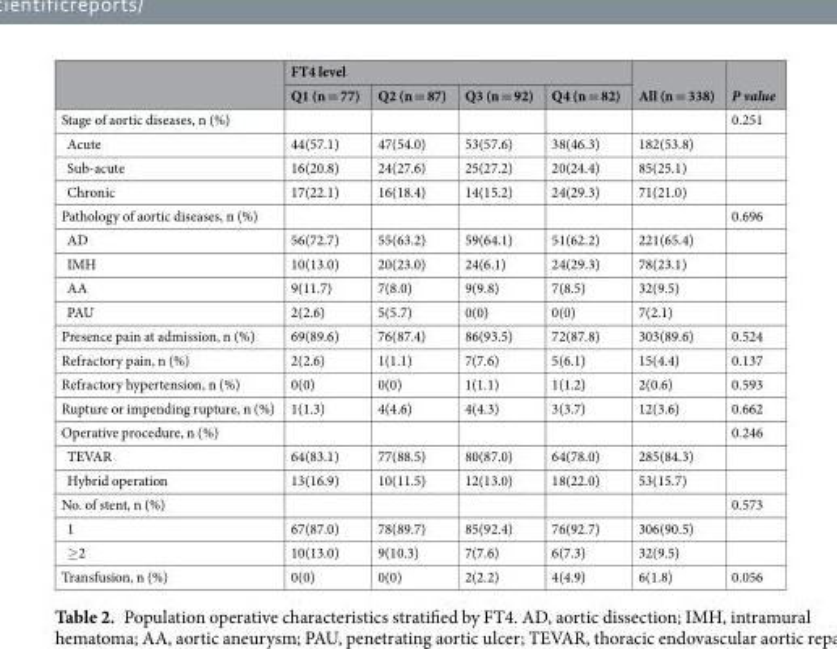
<table><thead><tr><td rowspan="2"></td><td colspan="4">FT4 level</td><td rowspan="2">All (n = 338)</td><td rowspan="2">P value</td></tr><tr><td>Q1 (n = 77)</td><td>Q2 (n = 87)</td><td>Q3 (n = 92)</td><td>Q4 (n = 82)</td></tr></thead><tbody><tr><td>Stage of aortic diseases, n (%)</td><td></td><td></td><td></td><td></td><td></td><td>0.251</td></tr><tr><td>Acute</td><td>44(57.1)</td><td>47(54.0)</td><td>53(57.6)</td><td>38(46.3)</td><td>182(53.8)</td><td></td></tr><tr><td>Sub-acute</td><td>16(20.8)</td><td>24(27.6)</td><td>25(27.2)</td><td>20(24.4)</td><td>85(25.1)</td><td></td></tr><tr><td>Chronic</td><td>17(22.1)</td><td>16(18.4)</td><td>14(15.2)</td><td>24(29.3)</td><td>71(21.0)</td><td></td></tr><tr><td>Pathology of aortic diseases, n (%)</td><td></td><td></td><td></td><td></td><td></td><td>0.696</td></tr><tr><td>AD</td><td>56(72.7)</td><td>55(63.2)</td><td>59(64.1)</td><td>51(62.2)</td><td>221(65.4)</td><td></td></tr><tr><td>IMH</td><td>10(13.0)</td><td>20(23.0)</td><td>24(6.1)</td><td>24(29.3)</td><td>78(23.1)</td><td></td></tr><tr><td>AA</td><td>9(11.7)</td><td>7(8.0)</td><td>9(9.8)</td><td>7(8.5)</td><td>32(9.5)</td><td></td></tr><tr><td>PAU</td><td>2(2.6)</td><td>5(5.7)</td><td>0(0)</td><td>0(0)</td><td>7(2.1)</td><td></td></tr><tr><td>Presence pain at admission, n (%)</td><td>69(89.6)</td><td>76(87.4)</td><td>86(93.5)</td><td>72(87.8)</td><td>303(89.6)</td><td>0.524</td></tr><tr><td>Refractory pain, n (%)</td><td>2(2.6)</td><td>1(1.1)</td><td>7(7.6)</td><td>5(6.1)</td><td>15(4.4)</td><td>0.137</td></tr><tr><td>Refractory hypertension, n (%)</td><td>0(0)</td><td>0(0)</td><td>1(1.1)</td><td>1(1.2)</td><td>2(0.6)</td><td>0.593</td></tr><tr><td>Rupture or impending rupture, n (%)</td><td>1(1.3)</td><td>4(4.6)</td><td>4(4.3)</td><td>3(3.7)</td><td>12(3.6)</td><td>0.662</td></tr><tr><td>Operative procedure, n (%)</td><td></td><td></td><td></td><td></td><td></td><td>0.246</td></tr><tr><td>TEVAR</td><td>64(83.1)</td><td>77(88.5)</td><td>80(87.0)</td><td>64(78.0)</td><td>285(84.3)</td><td></td></tr><tr><td>Hybrid operation</td><td>13(16.9)</td><td>10(11.5)</td><td>12(13.0)</td><td>18(22.0)</td><td>53(15.7)</td><td></td></tr><tr><td>No. of stent, n (%)</td><td></td><td></td><td></td><td></td><td></td><td>0.573</td></tr><tr><td>1</td><td>67(87.0)</td><td>78(89.7)</td><td>85(92.4)</td><td>76(92.7)</td><td>306(90.5)</td><td></td></tr><tr><td>≥2</td><td>10(13.0)</td><td>9(10.3)</td><td>7(7.6)</td><td>6(7.3)</td><td>32(9.5)</td><td></td></tr><tr><td>Transfusion, n (%)</td><td>0(0)</td><td>0(0)</td><td>2(2.2)</td><td>4(4.9)</td><td>6(1.8)</td><td>0.056</td></tr></tbody></table>